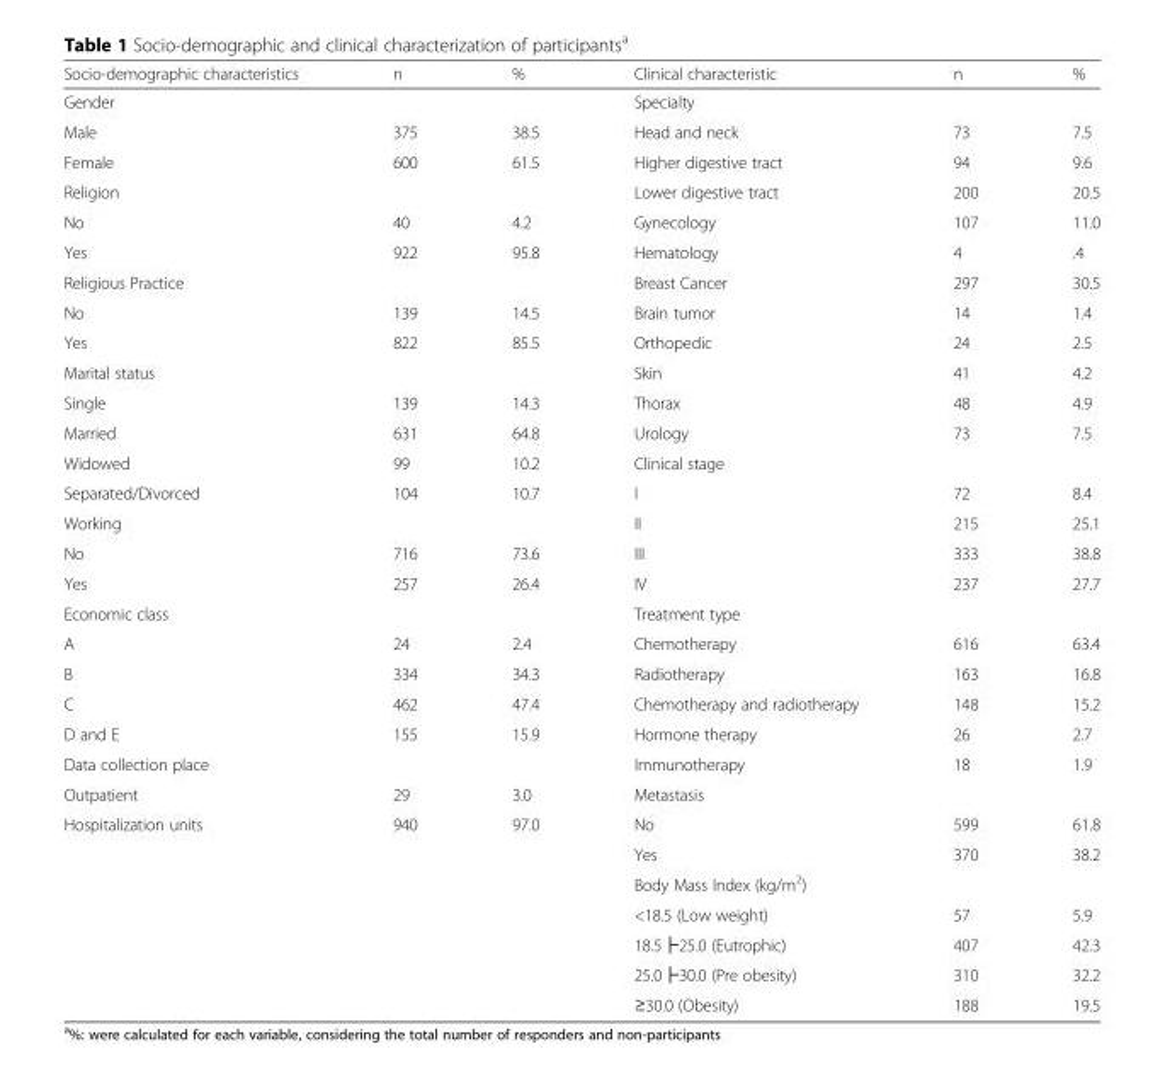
<table><thead><tr><td>Socio-demographic characteristics</td><td>n</td><td>%</td><td>Clinical characteristic</td><td>n</td><td>%</td></tr></thead><tbody><tr><td>Gender</td><td></td><td></td><td>Specialty</td><td></td><td></td></tr><tr><td>Male</td><td>375</td><td>38.5</td><td>Head and neck</td><td>73</td><td>7.5</td></tr><tr><td>Female</td><td>600</td><td>61.5</td><td>Higher digestive tract</td><td>94</td><td>9.6</td></tr><tr><td>Religion</td><td></td><td></td><td>Lower digestive tract</td><td>200</td><td>20.5</td></tr><tr><td>No</td><td>40</td><td>4.2</td><td>Gynecology</td><td>107</td><td>11.0</td></tr><tr><td>Yes</td><td>922</td><td>95.8</td><td>Hematology</td><td>4</td><td>.4</td></tr><tr><td>Religious Practice</td><td></td><td></td><td>Breast Cancer</td><td>297</td><td>30.5</td></tr><tr><td>No</td><td>139</td><td>14.5</td><td>Brain tumor</td><td>14</td><td>1.4</td></tr><tr><td>Yes</td><td>822</td><td>85.5</td><td>Orthopedic</td><td>24</td><td>2.5</td></tr><tr><td>Marital status</td><td></td><td></td><td>Skin</td><td>41</td><td>4.2</td></tr><tr><td>Single</td><td>139</td><td>14.3</td><td>Thorax</td><td>48</td><td>4.9</td></tr><tr><td>Married</td><td>631</td><td>64.8</td><td>Urology</td><td>73</td><td>7.5</td></tr><tr><td>Widowed</td><td>99</td><td>10.2</td><td>Clinical stage</td><td></td><td></td></tr><tr><td>Separated/Divorced</td><td>104</td><td>10.7</td><td>I</td><td>72</td><td>8.4</td></tr><tr><td>Working</td><td></td><td></td><td>II</td><td>215</td><td>25.1</td></tr><tr><td>No</td><td>716</td><td>73.6</td><td>III</td><td>333</td><td>38.8</td></tr><tr><td>Yes</td><td>257</td><td>26.4</td><td>IV</td><td>237</td><td>27.7</td></tr><tr><td>Economic class</td><td></td><td></td><td>Treatment type</td><td></td><td></td></tr><tr><td>A</td><td>24</td><td>2.4</td><td>Chemotherapy</td><td>616</td><td>63.4</td></tr><tr><td>B</td><td>334</td><td>34.3</td><td>Radiotherapy</td><td>163</td><td>16.8</td></tr><tr><td>C</td><td>462</td><td>47.4</td><td>Chemotherapy and radiotherapy</td><td>148</td><td>15.2</td></tr><tr><td>D and E</td><td>155</td><td>15.9</td><td>Hormone therapy</td><td>26</td><td>2.7</td></tr><tr><td>Data collection place</td><td></td><td></td><td>Immunotherapy</td><td>18</td><td>1.9</td></tr><tr><td>Outpatient</td><td>29</td><td>3.0</td><td>Metastasis</td><td></td><td></td></tr><tr><td rowspan="7">Hospitalization units</td><td>940</td><td>97.0</td><td>No</td><td>599</td><td>61.8</td></tr><tr><td></td><td></td><td>Yes</td><td>370</td><td>38.2</td></tr><tr><td></td><td></td><td>Body Mass Index (kg/m<sup>2</sup>)</td><td></td><td></td></tr><tr><td></td><td></td><td>&lt;18.5 (Low weight)</td><td>57</td><td>5.9</td></tr><tr><td></td><td></td><td>18.5├25.0 (Eutrophic)</td><td>407</td><td>42.3</td></tr><tr><td></td><td></td><td>25.0├30.0 (Pre obesity)</td><td>310</td><td>32.2</td></tr><tr><td></td><td></td><td>≥30.0 (Obesity)</td><td>188</td><td>19.5</td></tr></tbody></table>